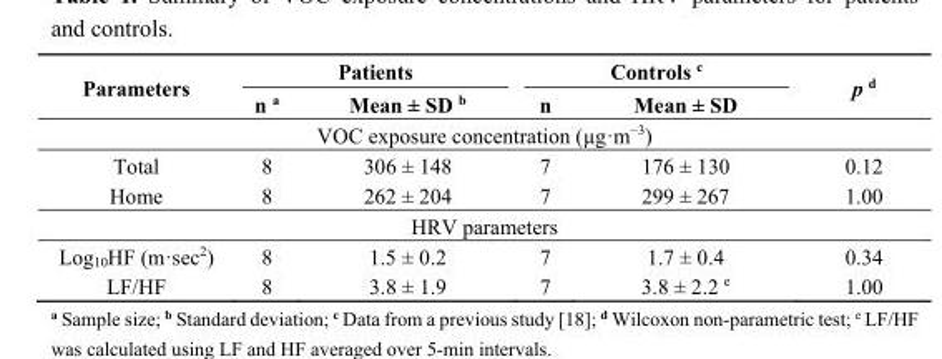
<table><thead><tr><td rowspan="2">Parameters</td><td colspan="2">Patients</td><td colspan="2">Controls <sup>c</sup></td><td rowspan="2">p <sup>d</sup></td></tr><tr><td>n <sup>a</sup></td><td>Mean ± SD <sup>b</sup></td><td>n</td><td>Mean ± SD</td></tr></thead><tbody><tr><td colspan="6">VOC exposure concentration (µg·m<sup>−3</sup>)</td></tr><tr><td>Total</td><td>8</td><td>306 ± 148</td><td>7</td><td>176 ± 130</td><td>0.12</td></tr><tr><td>Home</td><td>8</td><td>262 ± 204</td><td>7</td><td>299 ± 267</td><td>1.00</td></tr><tr><td colspan="6">HRV parameters</td></tr><tr><td>Log<sub>10</sub>HF (m·sec<sup>2</sup>)</td><td>8</td><td>1.5 ± 0.2</td><td>7</td><td>1.7 ± 0.4</td><td>0.34</td></tr><tr><td>LF/HF</td><td>8</td><td>3.8 ± 1.9</td><td>7</td><td>3.8 ± 2.2 <sup>e</sup></td><td>1.00</td></tr></tbody></table>